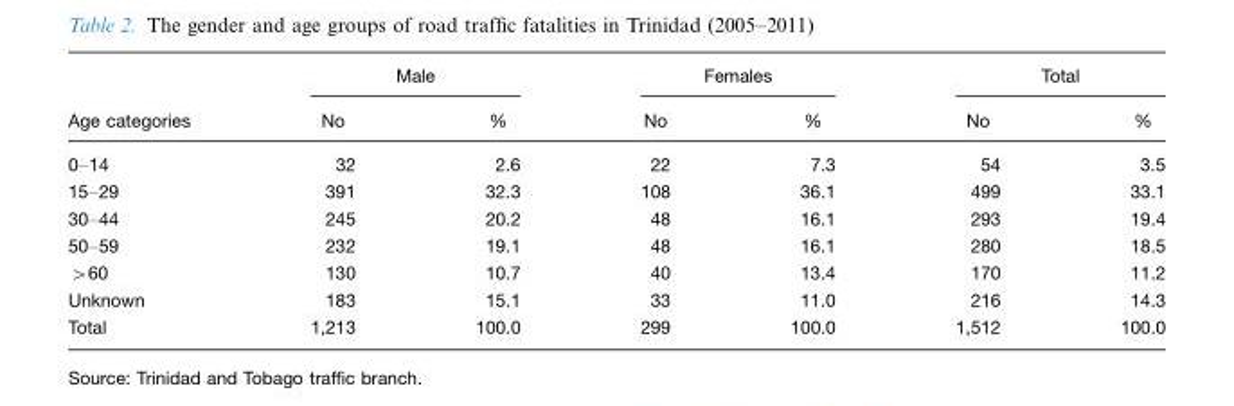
<table><thead><tr><td rowspan="2">Age categories</td><td colspan="2">Male</td><td colspan="2">Females</td><td colspan="2">Total</td></tr><tr><td>No</td><td>%</td><td>No</td><td>%</td><td>No</td><td>%</td></tr></thead><tbody><tr><td>0–14</td><td>32</td><td>2.6</td><td>22</td><td>7.3</td><td>54</td><td>3.5</td></tr><tr><td>15–29</td><td>391</td><td>32.3</td><td>108</td><td>36.1</td><td>499</td><td>33.1</td></tr><tr><td>30–44</td><td>245</td><td>20.2</td><td>48</td><td>16.1</td><td>293</td><td>19.4</td></tr><tr><td>50–59</td><td>232</td><td>19.1</td><td>48</td><td>16.1</td><td>280</td><td>18.5</td></tr><tr><td>&gt;60</td><td>130</td><td>10.7</td><td>40</td><td>13.4</td><td>170</td><td>11.2</td></tr><tr><td>Unknown</td><td>183</td><td>15.1</td><td>33</td><td>11.0</td><td>216</td><td>14.3</td></tr><tr><td>Total</td><td>1,213</td><td>100.0</td><td>299</td><td>100.0</td><td>1,512</td><td>100.0</td></tr></tbody></table>